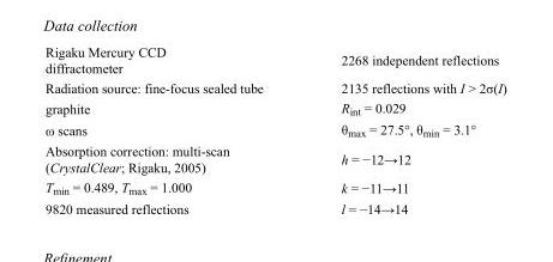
<table><tbody><tr><td>Rigaku Mercury CCD diffractometer</td><td>2268 independent reflections</td></tr><tr><td>Radiation source: fine-focus sealed tube</td><td>2135 reflections with I &gt; 2σ(I)</td></tr><tr><td>graphite</td><td>R<sub>int</sub> = 0.029</td></tr><tr><td>ω scans</td><td>θ<sub>max</sub> = 27.5°, θ<sub>min</sub> = 3.1°</td></tr><tr><td>Absorption correction: multi-scan (CrystalClear; Rigaku, 2005)</td><td>h = −12→12</td></tr><tr><td>T<sub>min</sub> = 0.489, T<sub>max</sub> = 1.000</td><td>k = −11→11</td></tr><tr><td>9820 measured reflections</td><td>l = −14→14</td></tr></tbody></table>